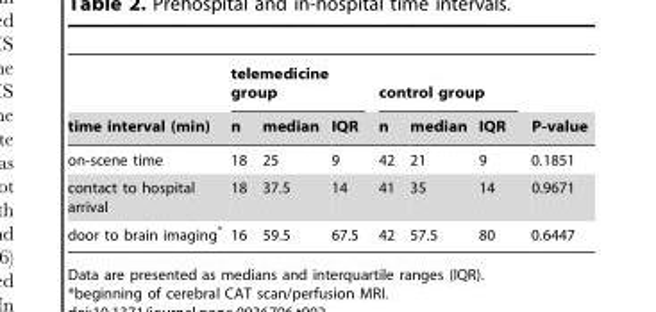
<table><thead><tr><td rowspan="2">time interval (min)</td><td colspan="3">telemedicine group</td><td colspan="3">control group</td><td rowspan="2">P-value</td></tr><tr><td>n</td><td>median</td><td>IQR</td><td>n</td><td>median</td><td>IQR</td></tr></thead><tbody><tr><td>on-scene time</td><td>18</td><td>25</td><td>9</td><td>42</td><td>21</td><td>9</td><td>0.1851</td></tr><tr><td>contact to hospital arrival</td><td>18</td><td>37.5</td><td>14</td><td>41</td><td>35</td><td>14</td><td>0.9671</td></tr><tr><td>door to brain imaging*</td><td>16</td><td>59.5</td><td>67.5</td><td>42</td><td>57.5</td><td>80</td><td>0.6447</td></tr></tbody></table>